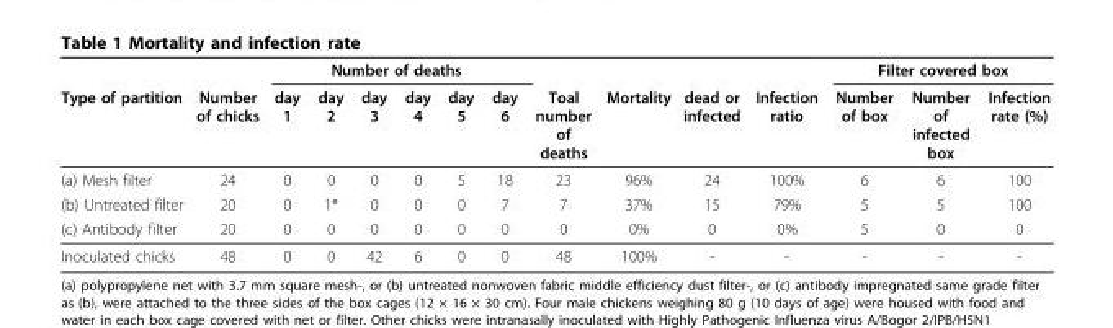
<table><thead><tr><td rowspan="2">Type of partition</td><td rowspan="2">Number of chicks</td><td colspan="6">Number of deaths</td><td rowspan="2">Toal number of deaths</td><td rowspan="2">Mortality</td><td rowspan="2">dead or infected</td><td rowspan="2">Infection ratio</td><td colspan="3">Filter covered box</td></tr><tr><td>day 1</td><td>day 2</td><td>day 3</td><td>day 4</td><td>day 5</td><td>day 6</td><td>Number of box</td><td>Number of infected box</td><td>Infection rate (%)</td></tr></thead><tbody><tr><td>(a) Mesh filter</td><td>24</td><td>0</td><td>0</td><td>0</td><td>0</td><td>5</td><td>18</td><td>23</td><td>96%</td><td>24</td><td>100%</td><td>6</td><td>6</td><td>100</td></tr><tr><td>(b) Untreated filter</td><td>20</td><td>0</td><td>1*</td><td>0</td><td>0</td><td>0</td><td>7</td><td>7</td><td>37%</td><td>15</td><td>79%</td><td>5</td><td>5</td><td>100</td></tr><tr><td>(c) Antibody filter</td><td>20</td><td>0</td><td>0</td><td>0</td><td>0</td><td>0</td><td>0</td><td>0</td><td>0%</td><td>0</td><td>0%</td><td>5</td><td>0</td><td>0</td></tr><tr><td>Inoculated chicks</td><td>48</td><td>0</td><td>0</td><td>42</td><td>6</td><td>0</td><td>0</td><td>48</td><td>100%</td><td>-</td><td>-</td><td>-</td><td>-</td><td>-</td></tr></tbody></table>